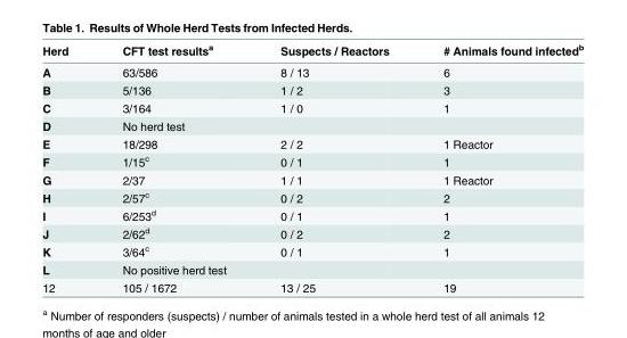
<table><thead><tr><td>Herd</td><td>CFT test results<sup>a</sup></td><td>Suspects / Reactors</td><td># Animals found infected<sup>b</sup></td></tr></thead><tbody><tr><td>A</td><td>63/586</td><td>8 / 13</td><td>6</td></tr><tr><td>B</td><td>5/136</td><td>1 / 2</td><td>3</td></tr><tr><td>C</td><td>3/164</td><td>1 / 0</td><td>1</td></tr><tr><td>D</td><td>No herd test</td><td></td><td></td></tr><tr><td>E</td><td>18/298</td><td>2 / 2</td><td>1 Reactor</td></tr><tr><td>F</td><td>1/15<sup>c</sup></td><td>0 / 1</td><td>1</td></tr><tr><td>G</td><td>2/37</td><td>1 / 1</td><td>1 Reactor</td></tr><tr><td>H</td><td>2/57<sup>c</sup></td><td>0 / 2</td><td>2</td></tr><tr><td>I</td><td>6/253<sup>d</sup></td><td>0 / 1</td><td>1</td></tr><tr><td>J</td><td>2/62<sup>d</sup></td><td>0 / 2</td><td>2</td></tr><tr><td>K</td><td>3/64<sup>c</sup></td><td>0 / 1</td><td>1</td></tr><tr><td>L</td><td>No positive herd test</td><td></td><td></td></tr><tr><td>12</td><td>105 / 1672</td><td>13 / 25</td><td>19</td></tr></tbody></table>